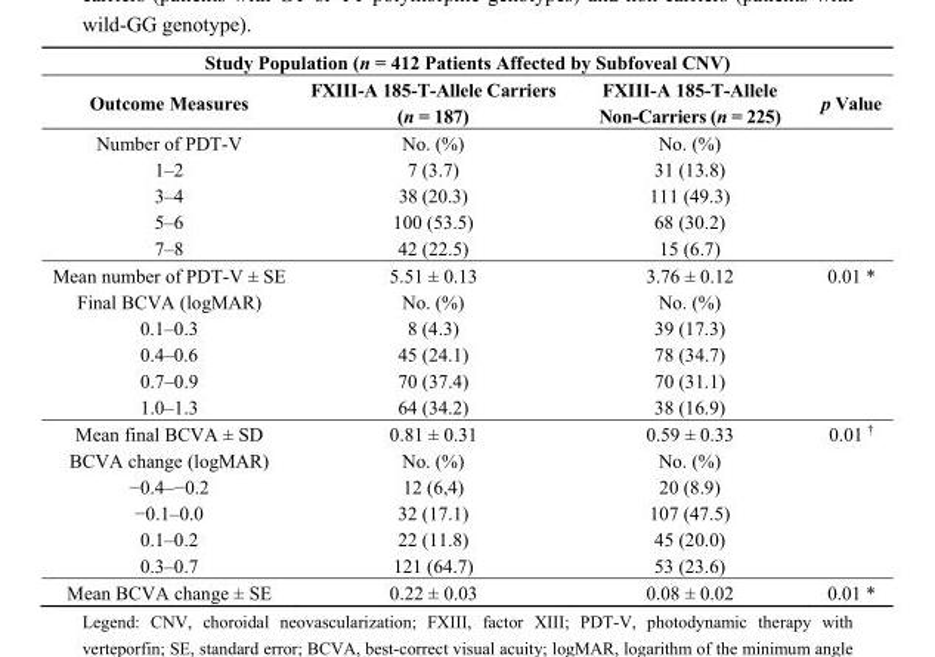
<table><thead><tr><td colspan="4">Study Population (n = 412 Patients Affected by Subfoveal CNV)</td></tr><tr><td>Outcome Measures</td><td>FXIII-A 185-T-Allele Carriers (n = 187)</td><td>FXIII-A 185-T-Allele Non-Carriers (n = 225)</td><td>p Value</td></tr></thead><tbody><tr><td>Number of PDT-V</td><td>No. (%)</td><td>No. (%)</td><td></td></tr><tr><td>1–2</td><td>7 (3.7)</td><td>31 (13.8)</td><td></td></tr><tr><td>3–4</td><td>38 (20.3)</td><td>111 (49.3)</td><td></td></tr><tr><td>5–6</td><td>100 (53.5)</td><td>68 (30.2)</td><td></td></tr><tr><td>7–8</td><td>42 (22.5)</td><td>15 (6.7)</td><td></td></tr><tr><td>Mean number of PDT-V ± SE</td><td>5.51 ± 0.13</td><td>3.76 ± 0.12</td><td>0.01 *</td></tr><tr><td>Final BCVA (logMAR)</td><td>No. (%)</td><td>No. (%)</td><td></td></tr><tr><td>0.1–0.3</td><td>8 (4.3)</td><td>39 (17.3)</td><td></td></tr><tr><td>0.4–0.6</td><td>45 (24.1)</td><td>78 (34.7)</td><td></td></tr><tr><td>0.7–0.9</td><td>70 (37.4)</td><td>70 (31.1)</td><td></td></tr><tr><td>1.0–1.3</td><td>64 (34.2)</td><td>38 (16.9)</td><td></td></tr><tr><td>Mean final BCVA ± SD</td><td>0.81 ± 0.31</td><td>0.59 ± 0.33</td><td>0.01 <sup>†</sup></td></tr><tr><td>BCVA change (logMAR)</td><td>No. (%)</td><td>No. (%)</td><td></td></tr><tr><td>−0.4–−0.2</td><td>12 (6,4)</td><td>20 (8.9)</td><td></td></tr><tr><td>−0.1–0.0</td><td>32 (17.1)</td><td>107 (47.5)</td><td></td></tr><tr><td>0.1–0.2</td><td>22 (11.8)</td><td>45 (20.0)</td><td></td></tr><tr><td>0.3–0.7</td><td>121 (64.7)</td><td>53 (23.6)</td><td></td></tr><tr><td>Mean BCVA change ± SE</td><td>0.22 ± 0.03</td><td>0.08 ± 0.02</td><td>0.01 *</td></tr></tbody></table>